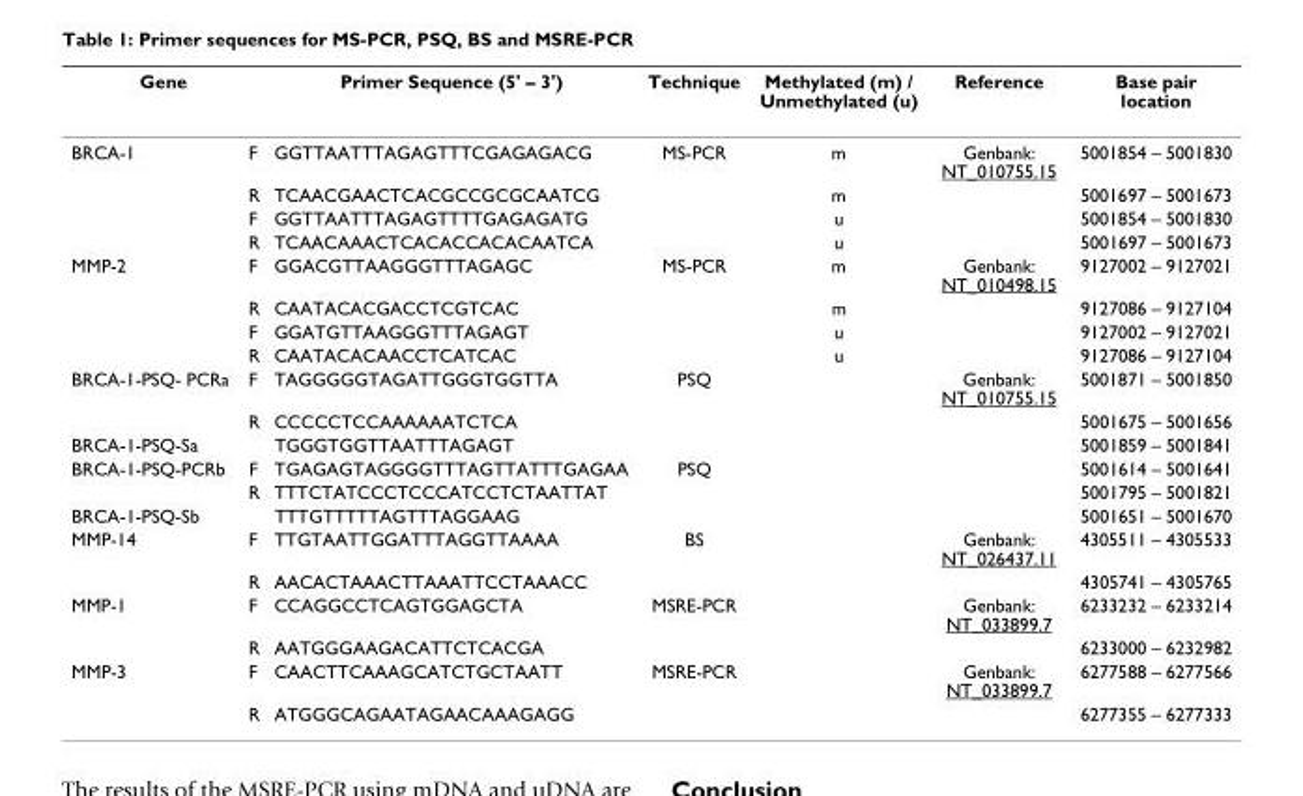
<table><thead><tr><td colspan="2">Gene</td><td rowspan="2">Primer Sequence (5&#x27; – 3&#x27;) GGTTAATTTAGAGTTTCGAGAGACG</td><td rowspan="2">Technique MS-PCR</td><td rowspan="2">Methylated (m) / Unmethylated (u) m</td><td rowspan="2">Reference Genbank: NT_010755.15</td><td rowspan="2">Base pair location 5001854 – 5001830</td></tr><tr><td>BRCA-1</td><td>F</td></tr></thead><tbody><tr><td></td><td>R</td><td>TCAACGAACTCACGCCGCGCAATCG</td><td></td><td>m</td><td></td><td>5001697 – 5001673</td></tr><tr><td></td><td>F</td><td>GGTTAATTTAGAGTTTTGAGAGATG</td><td></td><td>u</td><td></td><td>5001854 – 5001830</td></tr><tr><td></td><td>R</td><td>TCAACAAACTCACACCACACAATCA</td><td></td><td>u</td><td></td><td>5001697 – 5001673</td></tr><tr><td rowspan="4">MMP-2</td><td>F</td><td>GGACGTTAAGGGTTTAGAGC</td><td>MS-PCR</td><td>m</td><td>Genbank: NT_010498.15</td><td>9127002 – 9127021</td></tr><tr><td>R</td><td>CAATACACGACCTCGTCAC</td><td></td><td>m</td><td></td><td>9127086 – 9127104</td></tr><tr><td>F</td><td>GGATGTTAAGGGTTTAGAGT</td><td></td><td>u</td><td></td><td>9127002 – 9127021</td></tr><tr><td>R</td><td>CAATACACAACCTCATCAC</td><td></td><td>u</td><td></td><td>9127086 – 9127104</td></tr><tr><td rowspan="2">BRCA-1-PSQ- PCRa</td><td>F</td><td>TAGGGGGTAGATTGGGTGGTTA</td><td>PSQ</td><td></td><td>Genbank: NT_010755.15</td><td>5001871 – 5001850</td></tr><tr><td>R</td><td>CCCCCTCCAAAAAATCTCA</td><td></td><td></td><td></td><td>5001675 – 5001656</td></tr><tr><td>BRCA-1-PSQ-Sa</td><td></td><td>TGGGTGGTTAATTTAGAGT</td><td></td><td></td><td></td><td>5001859 – 5001841</td></tr><tr><td rowspan="2">BRCA-1-PSQ-PCRb</td><td>F</td><td>TGAGAGTAGGGGTTTAGTTATTTGAGAA</td><td>PSQ</td><td></td><td></td><td>5001614 – 5001641</td></tr><tr><td>R</td><td>TTTCTATCCCTCCCATCCTCTAATTAT</td><td></td><td></td><td></td><td>5001795 – 5001821</td></tr><tr><td>BRCA-1-PSQ-Sb</td><td></td><td>TTTGTTTTTAGTTTAGGAAG</td><td></td><td></td><td></td><td>5001651 – 5001670</td></tr><tr><td rowspan="2">MMP-14</td><td>F</td><td>TTGTAATTGGATTTAGGTTAAAA</td><td>BS</td><td></td><td>Genbank: NT_026437.11</td><td>4305511 – 4305533</td></tr><tr><td>R</td><td>AACACTAAACTTAAATTCCTAAACC</td><td></td><td></td><td></td><td>4305741 – 4305765</td></tr><tr><td rowspan="2">MMP-1</td><td>F</td><td>CCAGGCCTCAGTGGAGCTA</td><td>MSRE-PCR</td><td></td><td>Genbank: NT_033899.7</td><td>6233232 – 6233214</td></tr><tr><td>R</td><td>AATGGGAAGACATTCTCACGA</td><td></td><td></td><td></td><td>6233000 – 6232982</td></tr><tr><td rowspan="2">MMP-3</td><td>F</td><td>CAACTTCAAAGCATCTGCTAATT</td><td>MSRE-PCR</td><td></td><td>Genbank: NT_033899.7</td><td>6277588 – 6277566</td></tr><tr><td>R</td><td>ATGGGCAGAATAGAACAAAGAGG</td><td></td><td></td><td></td><td>6277355 – 6277333</td></tr></tbody></table>